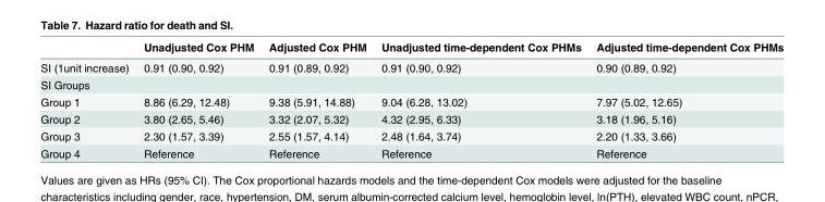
<table><thead><tr><td></td><td>Unadjusted Cox PHM</td><td>Adjusted Cox PHM</td><td>Unadjusted time-dependent Cox PHMs</td><td>Adjusted time-dependent Cox PHMs</td></tr></thead><tbody><tr><td>SI (1unit increase)</td><td>0.91 (0.90, 0.92)</td><td>0.91 (0.89, 0.92)</td><td>0.91 (0.90, 0.92)</td><td>0.90 (0.89, 0.92)</td></tr><tr><td colspan="5">SI Groups</td></tr><tr><td>Group 1</td><td>8.86 (6.29, 12.48)</td><td>9.38 (5.91, 14.88)</td><td>9.04 (6.28, 13.02)</td><td>7.97 (5.02, 12.65)</td></tr><tr><td>Group 2</td><td>3.80 (2.65, 5.46)</td><td>3.32 (2.07, 5.32)</td><td>4.32 (2.95, 6.33)</td><td>3.18 (1.96, 5.16)</td></tr><tr><td>Group 3</td><td>2.30 (1.57, 3.39)</td><td>2.55 (1.57, 4.14)</td><td>2.48 (1.64, 3.74)</td><td>2.20 (1.33, 3.66)</td></tr><tr><td>Group 4</td><td>Reference</td><td>Reference</td><td>Reference</td><td>Reference</td></tr></tbody></table>